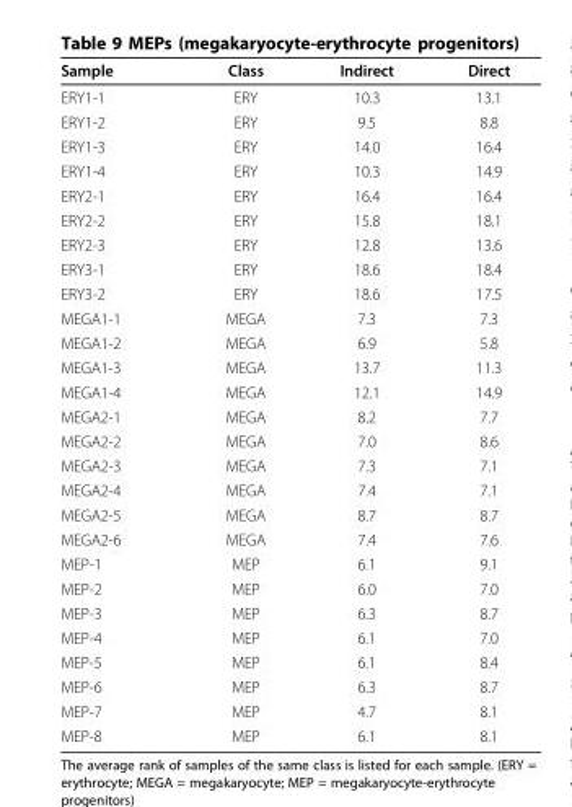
<table><thead><tr><td>Sample</td><td>Class</td><td>Indirect</td><td>Direct</td></tr></thead><tbody><tr><td>ERY1-1</td><td>ERY</td><td>10.3</td><td>13.1</td></tr><tr><td>ERY1-2</td><td>ERY</td><td>9.5</td><td>8.8</td></tr><tr><td>ERY1-3</td><td>ERY</td><td>14.0</td><td>16.4</td></tr><tr><td>ERY1-4</td><td>ERY</td><td>10.3</td><td>14.9</td></tr><tr><td>ERY2-1</td><td>ERY</td><td>16.4</td><td>16.4</td></tr><tr><td>ERY2-2</td><td>ERY</td><td>15.8</td><td>18.1</td></tr><tr><td>ERY2-3</td><td>ERY</td><td>12.8</td><td>13.6</td></tr><tr><td>ERY3-1</td><td>ERY</td><td>18.6</td><td>18.4</td></tr><tr><td>ERY3-2</td><td>ERY</td><td>18.6</td><td>17.5</td></tr><tr><td>MEGA1-1</td><td>MEGA</td><td>7.3</td><td>7.3</td></tr><tr><td>MEGA1-2</td><td>MEGA</td><td>6.9</td><td>5.8</td></tr><tr><td>MEGA1-3</td><td>MEGA</td><td>13.7</td><td>11.3</td></tr><tr><td>MEGA1-4</td><td>MEGA</td><td>12.1</td><td>14.9</td></tr><tr><td>MEGA2-1</td><td>MEGA</td><td>8.2</td><td>7.7</td></tr><tr><td>MEGA2-2</td><td>MEGA</td><td>7.0</td><td>8.6</td></tr><tr><td>MEGA2-3</td><td>MEGA</td><td>7.3</td><td>7.1</td></tr><tr><td>MEGA2-4</td><td>MEGA</td><td>7.4</td><td>7.1</td></tr><tr><td>MEGA2-5</td><td>MEGA</td><td>8.7</td><td>8.7</td></tr><tr><td>MEGA2-6</td><td>MEGA</td><td>7.4</td><td>7.6</td></tr><tr><td>MEP-1</td><td>MEP</td><td>6.1</td><td>9.1</td></tr><tr><td>MEP-2</td><td>MEP</td><td>6.0</td><td>7.0</td></tr><tr><td>MEP-3</td><td>MEP</td><td>6.3</td><td>8.7</td></tr><tr><td>MEP-4</td><td>MEP</td><td>6.1</td><td>7.0</td></tr><tr><td>MEP-5</td><td>MEP</td><td>6.1</td><td>8.4</td></tr><tr><td>MEP-6</td><td>MEP</td><td>6.3</td><td>8.7</td></tr><tr><td>MEP-7</td><td>MEP</td><td>4.7</td><td>8.1</td></tr><tr><td>MEP-8</td><td>MEP</td><td>6.1</td><td>8.1</td></tr></tbody></table>